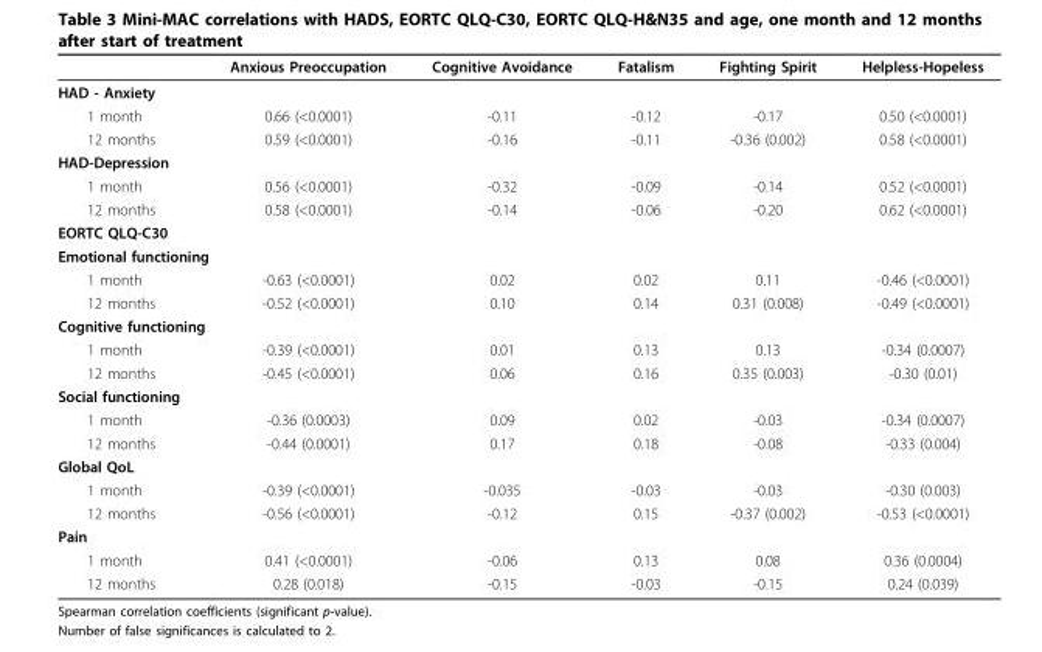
<table><thead><tr><td></td><td>Anxious Preoccupation</td><td>Cognitive Avoidance</td><td>Fatalism</td><td>Fighting Spirit</td><td>Helpless-Hopeless</td></tr></thead><tbody><tr><td colspan="6">HAD - Anxiety</td></tr><tr><td>1 month</td><td>0.66 (&lt;0.0001)</td><td>-0.11</td><td>-0.12</td><td>-0.17</td><td>0.50 (&lt;0.0001)</td></tr><tr><td>12 months</td><td>0.59 (&lt;0.0001)</td><td>-0.16</td><td>-0.11</td><td>-0.36 (0.002)</td><td>0.58 (&lt;0.0001)</td></tr><tr><td colspan="6">HAD-Depression</td></tr><tr><td>1 month</td><td>0.56 (&lt;0.0001)</td><td>-0.32</td><td>-0.09</td><td>-0.14</td><td>0.52 (&lt;0.0001)</td></tr><tr><td>12 months</td><td>0.58 (&lt;0.0001)</td><td>-0.14</td><td>-0.06</td><td>-0.20</td><td>0.62 (&lt;0.0001)</td></tr><tr><td colspan="6">EORTC QLQ-C30</td></tr><tr><td colspan="6">Emotional functioning</td></tr><tr><td>1 month</td><td>-0.63 (&lt;0.0001)</td><td>0.02</td><td>0.02</td><td>0.11</td><td>-0.46 (&lt;0.0001)</td></tr><tr><td>12 months</td><td>-0.52 (&lt;0.0001)</td><td>0.10</td><td>0.14</td><td>0.31 (0.008)</td><td>-0.49 (&lt;0.0001)</td></tr><tr><td colspan="6">Cognitive functioning</td></tr><tr><td>1 month</td><td>-0.39 (&lt;0.0001)</td><td>0.01</td><td>0.13</td><td>0.13</td><td>-0.34 (0.0007)</td></tr><tr><td>12 months</td><td>-0.45 (&lt;0.0001)</td><td>0.06</td><td>0.16</td><td>0.35 (0.003)</td><td>-0.30 (0.01)</td></tr><tr><td colspan="6">Social functioning</td></tr><tr><td>1 month</td><td>-0.36 (0.0003)</td><td>0.09</td><td>0.02</td><td>-0.03</td><td>-0.34 (0.0007)</td></tr><tr><td>12 months</td><td>-0.44 (0.0001)</td><td>0.17</td><td>0.18</td><td>-0.08</td><td>-0.33 (0.004)</td></tr><tr><td colspan="6">Global QoL</td></tr><tr><td>1 month</td><td>-0.39 (&lt;0.0001)</td><td>-0.035</td><td>-0.03</td><td>-0.03</td><td>-0.30 (0.003)</td></tr><tr><td>12 months</td><td>-0.56 (&lt;0.0001)</td><td>-0.12</td><td>0.15</td><td>-0.37 (0.002)</td><td>-0.53 (&lt;0.0001)</td></tr><tr><td colspan="6">Pain</td></tr><tr><td>1 month</td><td>0.41 (&lt;0.0001)</td><td>-0.06</td><td>0.13</td><td>0.08</td><td>0.36 (0.0004)</td></tr><tr><td>12 months</td><td>0.28 (0.018)</td><td>-0.15</td><td>-0.03</td><td>-0.15</td><td>0.24 (0.039)</td></tr></tbody></table>